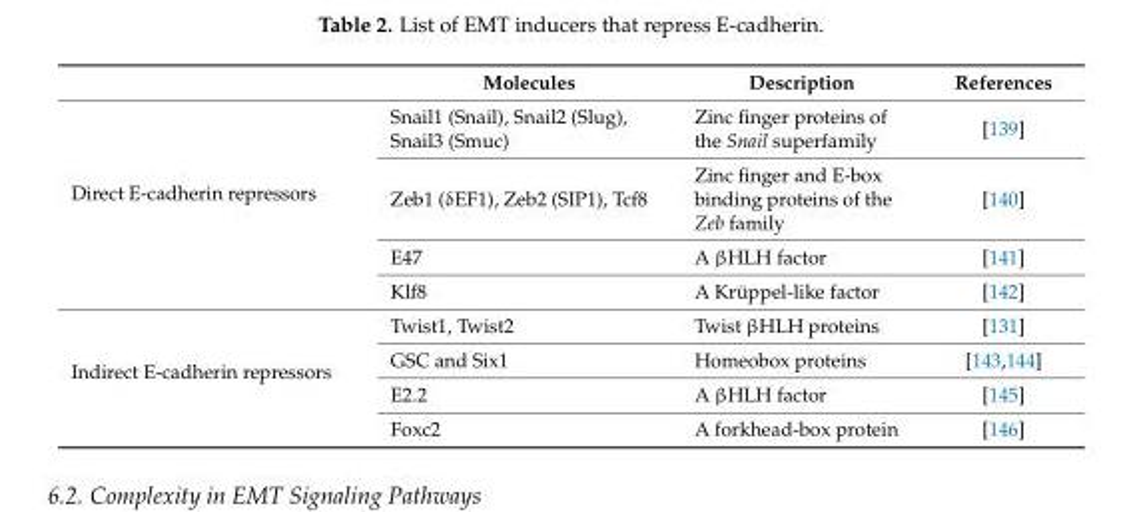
<table><thead><tr><td></td><td>Molecules</td><td>Description</td><td>References</td></tr></thead><tbody><tr><td rowspan="4">Direct E-cadherin repressors</td><td>Snail1 (Snail), Snail2 (Slug), Snail3 (Smuc)</td><td>Zinc finger proteins of the Snail superfamily</td><td>[139]</td></tr><tr><td>Zeb1 (δEF1), Zeb2 (SIP1), Tcf8</td><td>Zinc finger and E-box binding proteins of the Zeb family</td><td>[140]</td></tr><tr><td>E47</td><td>A βHLH factor</td><td>[141]</td></tr><tr><td>Klf8</td><td>A Krüppel-like factor</td><td>[142]</td></tr><tr><td rowspan="4">Indirect E-cadherin repressors</td><td>Twist1, Twist2</td><td>Twist βHLH proteins</td><td>[131]</td></tr><tr><td>GSC and Six1</td><td>Homeobox proteins</td><td>[143,144]</td></tr><tr><td>E2.2</td><td>A βHLH factor</td><td>[145]</td></tr><tr><td>Foxc2</td><td>A forkhead-box protein</td><td>[146]</td></tr></tbody></table>